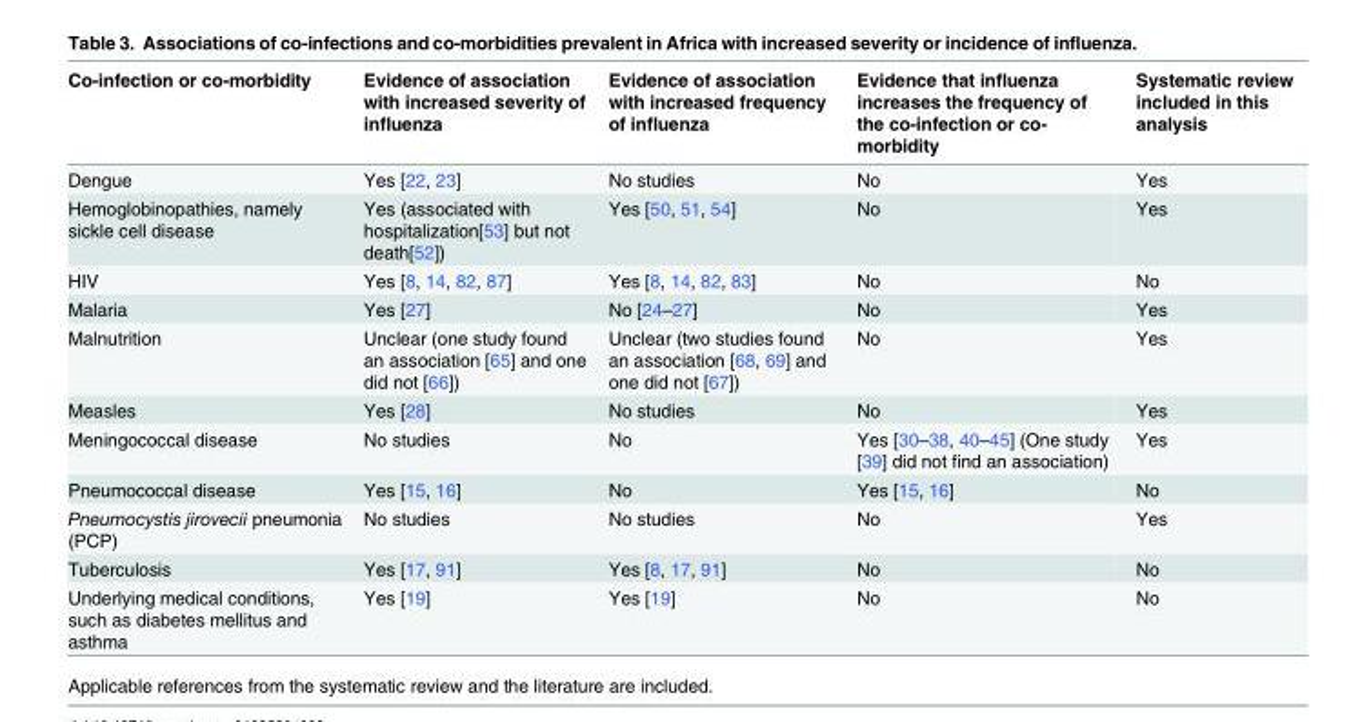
<table><thead><tr><td>Co-infection or co-morbidity</td><td>Evidence of association with increased severity of influenza</td><td>Evidence of association with increased frequency of influenza</td><td>Evidence that influenza increases the frequency of the co-infection or co- morbidity</td><td>Systematic review included in this analysis</td></tr></thead><tbody><tr><td>Dengue</td><td>Yes [22, 23]</td><td>No studies</td><td>No</td><td>Yes</td></tr><tr><td>Hemoglobinopathies, namely sickle cell disease</td><td>Yes (associated with hospitalization[53] but not death[52])</td><td>Yes [50, 51, 54]</td><td>No</td><td>Yes</td></tr><tr><td>HIV</td><td>Yes [8, 14, 82, 87]</td><td>Yes [8, 14, 82, 83]</td><td>No</td><td>No</td></tr><tr><td>Malaria</td><td>Yes [27]</td><td>No [24–27]</td><td>No</td><td>Yes</td></tr><tr><td>Malnutrition</td><td>Unclear (one study found an association [65] and one did not [66])</td><td>Unclear (two studies found an association [68, 69] and one did not [67])</td><td>No</td><td>Yes</td></tr><tr><td>Measles</td><td>Yes [28]</td><td>No studies</td><td>No</td><td>Yes</td></tr><tr><td>Meningococcal disease</td><td>No studies</td><td>No</td><td>Yes [30–38, 40–45] (One study [39] did not find an association)</td><td>Yes</td></tr><tr><td>Pneumococcal disease</td><td>Yes [15, 16]</td><td>No</td><td>Yes [15, 16]</td><td>No</td></tr><tr><td>Pneumocystis jirovecii pneumonia (PCP)</td><td>No studies</td><td>No studies</td><td>No</td><td>Yes</td></tr><tr><td>Tuberculosis</td><td>Yes [17, 91]</td><td>Yes [8, 17, 91]</td><td>No</td><td>No</td></tr><tr><td>Underlying medical conditions, such as diabetes mellitus and asthma</td><td>Yes [19]</td><td>Yes [19]</td><td>No</td><td>No</td></tr></tbody></table>